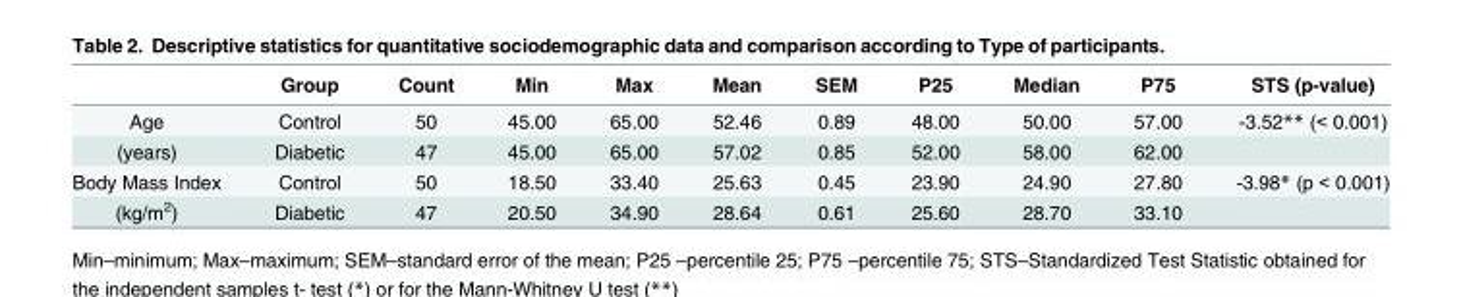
<table><thead><tr><td></td><td>Group</td><td>Count</td><td>Min</td><td>Max</td><td>Mean</td><td>SEM</td><td>P25</td><td>Median</td><td>P75</td><td>STS (p-value)</td></tr></thead><tbody><tr><td>Age</td><td>Control</td><td>50</td><td>45.00</td><td>65.00</td><td>52.46</td><td>0.89</td><td>48.00</td><td>50.00</td><td>57.00</td><td>-3.52** (&lt; 0.001)</td></tr><tr><td>(years)</td><td>Diabetic</td><td>47</td><td>45.00</td><td>65.00</td><td>57.02</td><td>0.85</td><td>52.00</td><td>58.00</td><td>62.00</td><td></td></tr><tr><td>Body Mass Index</td><td>Control</td><td>50</td><td>18.50</td><td>33.40</td><td>25.63</td><td>0.45</td><td>23.90</td><td>24.90</td><td>27.80</td><td>-3.98* (p &lt; 0.001)</td></tr><tr><td>(kg/m<sup>2</sup>)</td><td>Diabetic</td><td>47</td><td>20.50</td><td>34.90</td><td>28.64</td><td>0.61</td><td>25.60</td><td>28.70</td><td>33.10</td><td></td></tr></tbody></table>